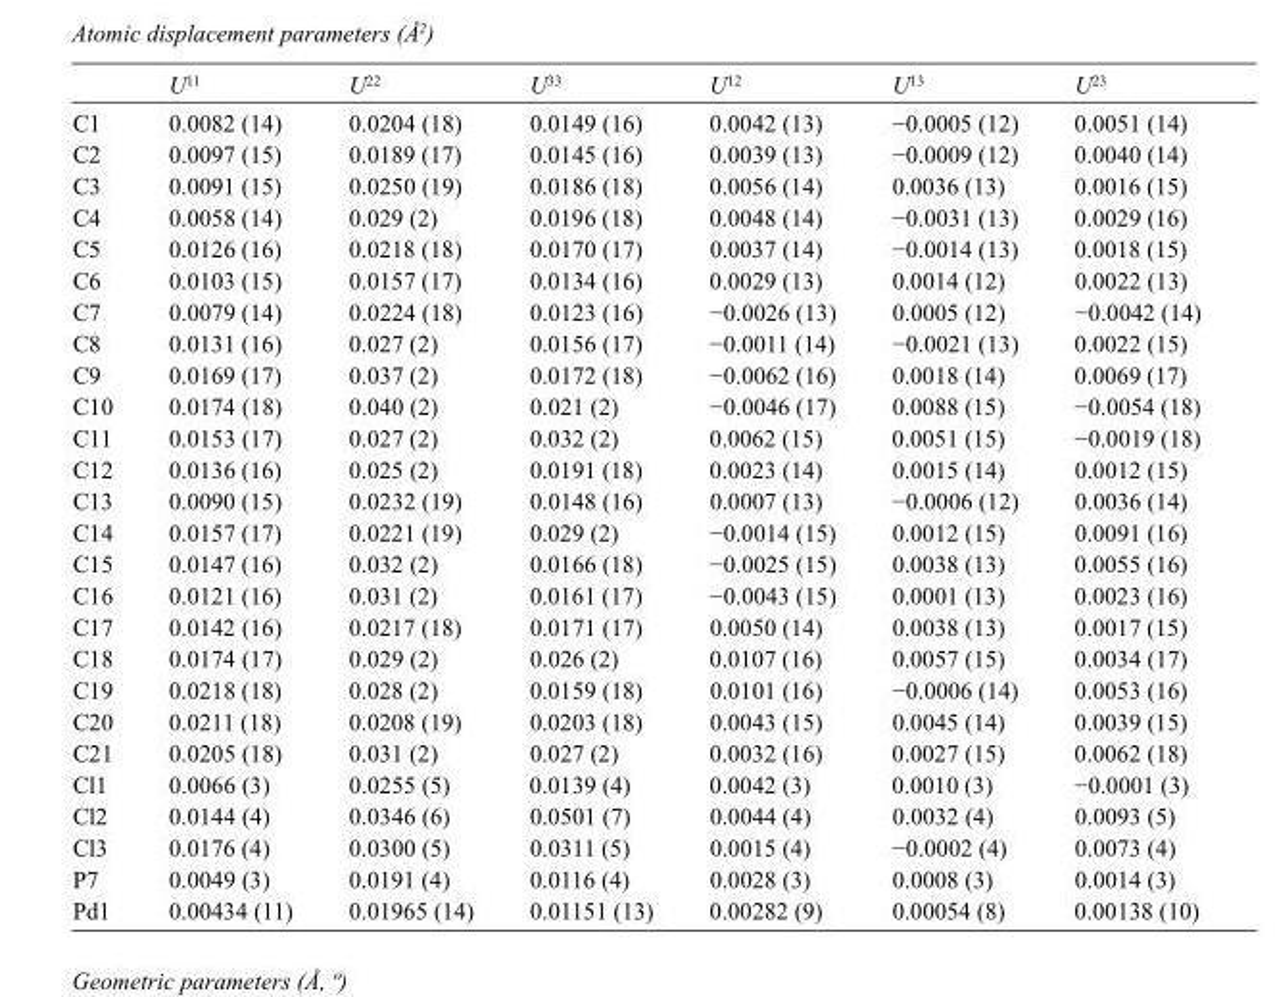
<table><thead><tr><td></td><td>U<sup>11</sup></td><td>U<sup>22</sup></td><td>U<sup>33</sup></td><td>U<sup>12</sup></td><td>U<sup>13</sup></td><td>U<sup>23</sup></td></tr></thead><tbody><tr><td>C1</td><td>0.0082 (14)</td><td>0.0204 (18)</td><td>0.0149 (16)</td><td>0.0042 (13)</td><td>−0.0005 (12)</td><td>0.0051 (14)</td></tr><tr><td>C2</td><td>0.0097 (15)</td><td>0.0189 (17)</td><td>0.0145 (16)</td><td>0.0039 (13)</td><td>−0.0009 (12)</td><td>0.0040 (14)</td></tr><tr><td>C3</td><td>0.0091 (15)</td><td>0.0250 (19)</td><td>0.0186 (18)</td><td>0.0056 (14)</td><td>0.0036 (13)</td><td>0.0016 (15)</td></tr><tr><td>C4</td><td>0.0058 (14)</td><td>0.029 (2)</td><td>0.0196 (18)</td><td>0.0048 (14)</td><td>−0.0031 (13)</td><td>0.0029 (16)</td></tr><tr><td>C5</td><td>0.0126 (16)</td><td>0.0218 (18)</td><td>0.0170 (17)</td><td>0.0037 (14)</td><td>−0.0014 (13)</td><td>0.0018 (15)</td></tr><tr><td>C6</td><td>0.0103 (15)</td><td>0.0157 (17)</td><td>0.0134 (16)</td><td>0.0029 (13)</td><td>0.0014 (12)</td><td>0.0022 (13)</td></tr><tr><td>C7</td><td>0.0079 (14)</td><td>0.0224 (18)</td><td>0.0123 (16)</td><td>−0.0026 (13)</td><td>0.0005 (12)</td><td>−0.0042 (14)</td></tr><tr><td>C8</td><td>0.0131 (16)</td><td>0.027 (2)</td><td>0.0156 (17)</td><td>−0.0011 (14)</td><td>−0.0021 (13)</td><td>0.0022 (15)</td></tr><tr><td>C9</td><td>0.0169 (17)</td><td>0.037 (2)</td><td>0.0172 (18)</td><td>−0.0062 (16)</td><td>0.0018 (14)</td><td>0.0069 (17)</td></tr><tr><td>C10</td><td>0.0174 (18)</td><td>0.040 (2)</td><td>0.021 (2)</td><td>−0.0046 (17)</td><td>0.0088 (15)</td><td>−0.0054 (18)</td></tr><tr><td>C11</td><td>0.0153 (17)</td><td>0.027 (2)</td><td>0.032 (2)</td><td>0.0062 (15)</td><td>0.0051 (15)</td><td>−0.0019 (18)</td></tr><tr><td>C12</td><td>0.0136 (16)</td><td>0.025 (2)</td><td>0.0191 (18)</td><td>0.0023 (14)</td><td>0.0015 (14)</td><td>0.0012 (15)</td></tr><tr><td>C13</td><td>0.0090 (15)</td><td>0.0232 (19)</td><td>0.0148 (16)</td><td>0.0007 (13)</td><td>−0.0006 (12)</td><td>0.0036 (14)</td></tr><tr><td>C14</td><td>0.0157 (17)</td><td>0.0221 (19)</td><td>0.029 (2)</td><td>−0.0014 (15)</td><td>0.0012 (15)</td><td>0.0091 (16)</td></tr><tr><td>C15</td><td>0.0147 (16)</td><td>0.032 (2)</td><td>0.0166 (18)</td><td>−0.0025 (15)</td><td>0.0038 (13)</td><td>0.0055 (16)</td></tr><tr><td>C16</td><td>0.0121 (16)</td><td>0.031 (2)</td><td>0.0161 (17)</td><td>−0.0043 (15)</td><td>0.0001 (13)</td><td>0.0023 (16)</td></tr><tr><td>C17</td><td>0.0142 (16)</td><td>0.0217 (18)</td><td>0.0171 (17)</td><td>0.0050 (14)</td><td>0.0038 (13)</td><td>0.0017 (15)</td></tr><tr><td>C18</td><td>0.0174 (17)</td><td>0.029 (2)</td><td>0.026 (2)</td><td>0.0107 (16)</td><td>0.0057 (15)</td><td>0.0034 (17)</td></tr><tr><td>C19</td><td>0.0218 (18)</td><td>0.028 (2)</td><td>0.0159 (18)</td><td>0.0101 (16)</td><td>−0.0006 (14)</td><td>0.0053 (16)</td></tr><tr><td>C20</td><td>0.0211 (18)</td><td>0.0208 (19)</td><td>0.0203 (18)</td><td>0.0043 (15)</td><td>0.0045 (14)</td><td>0.0039 (15)</td></tr><tr><td>C21</td><td>0.0205 (18)</td><td>0.031 (2)</td><td>0.027 (2)</td><td>0.0032 (16)</td><td>0.0027 (15)</td><td>0.0062 (18)</td></tr><tr><td>Cl1</td><td>0.0066 (3)</td><td>0.0255 (5)</td><td>0.0139 (4)</td><td>0.0042 (3)</td><td>0.0010 (3)</td><td>−0.0001 (3)</td></tr><tr><td>Cl2</td><td>0.0144 (4)</td><td>0.0346 (6)</td><td>0.0501 (7)</td><td>0.0044 (4)</td><td>0.0032 (4)</td><td>0.0093 (5)</td></tr><tr><td>Cl3</td><td>0.0176 (4)</td><td>0.0300 (5)</td><td>0.0311 (5)</td><td>0.0015 (4)</td><td>−0.0002 (4)</td><td>0.0073 (4)</td></tr><tr><td>P7</td><td>0.0049 (3)</td><td>0.0191 (4)</td><td>0.0116 (4)</td><td>0.0028 (3)</td><td>0.0008 (3)</td><td>0.0014 (3)</td></tr><tr><td>Pd1</td><td>0.00434 (11)</td><td>0.01965 (14)</td><td>0.01151 (13)</td><td>0.00282 (9)</td><td>0.00054 (8)</td><td>0.00138 (10)</td></tr></tbody></table>